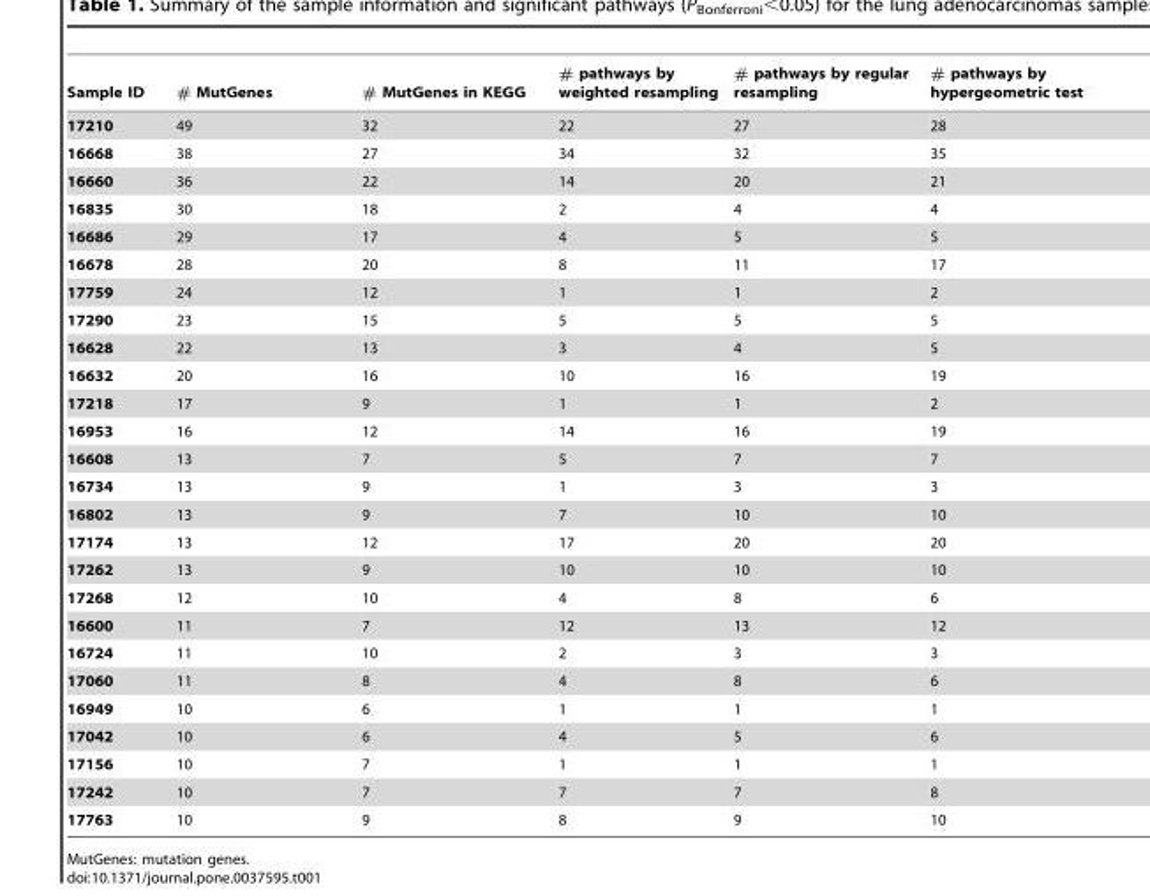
<table><thead><tr><td>Sample ID</td><td># MutGenes</td><td># MutGenes in KEGG</td><td># pathways by weighted resampling</td><td># pathways by regular resampling</td><td># pathways by hypergeometric test</td></tr></thead><tbody><tr><td>17210</td><td>49</td><td>32</td><td>22</td><td>27</td><td>28</td></tr><tr><td>16668</td><td>38</td><td>27</td><td>34</td><td>32</td><td>35</td></tr><tr><td>16660</td><td>36</td><td>22</td><td>14</td><td>20</td><td>21</td></tr><tr><td>16835</td><td>30</td><td>18</td><td>2</td><td>4</td><td>4</td></tr><tr><td>16686</td><td>29</td><td>17</td><td>4</td><td>5</td><td>5</td></tr><tr><td>16678</td><td>28</td><td>20</td><td>8</td><td>11</td><td>17</td></tr><tr><td>17759</td><td>24</td><td>12</td><td>1</td><td>1</td><td>2</td></tr><tr><td>17290</td><td>23</td><td>15</td><td>5</td><td>5</td><td>5</td></tr><tr><td>16628</td><td>22</td><td>13</td><td>3</td><td>4</td><td>5</td></tr><tr><td>16632</td><td>20</td><td>16</td><td>10</td><td>16</td><td>19</td></tr><tr><td>17218</td><td>17</td><td>9</td><td>1</td><td>1</td><td>2</td></tr><tr><td>16953</td><td>16</td><td>12</td><td>14</td><td>16</td><td>19</td></tr><tr><td>16608</td><td>13</td><td>7</td><td>5</td><td>7</td><td>7</td></tr><tr><td>16734</td><td>13</td><td>9</td><td>1</td><td>3</td><td>3</td></tr><tr><td>16802</td><td>13</td><td>9</td><td>7</td><td>10</td><td>10</td></tr><tr><td>17174</td><td>13</td><td>12</td><td>17</td><td>20</td><td>20</td></tr><tr><td>17262</td><td>13</td><td>9</td><td>10</td><td>10</td><td>10</td></tr><tr><td>17268</td><td>12</td><td>10</td><td>4</td><td>8</td><td>6</td></tr><tr><td>16600</td><td>11</td><td>7</td><td>12</td><td>13</td><td>12</td></tr><tr><td>16724</td><td>11</td><td>10</td><td>2</td><td>3</td><td>3</td></tr><tr><td>17060</td><td>11</td><td>8</td><td>4</td><td>8</td><td>6</td></tr><tr><td>16949</td><td>10</td><td>6</td><td>1</td><td>1</td><td>1</td></tr><tr><td>17042</td><td>10</td><td>6</td><td>4</td><td>5</td><td>6</td></tr><tr><td>17156</td><td>10</td><td>7</td><td>1</td><td>1</td><td>1</td></tr><tr><td>17242</td><td>10</td><td>7</td><td>7</td><td>7</td><td>8</td></tr><tr><td>17763</td><td>10</td><td>9</td><td>8</td><td>9</td><td>10</td></tr></tbody></table>